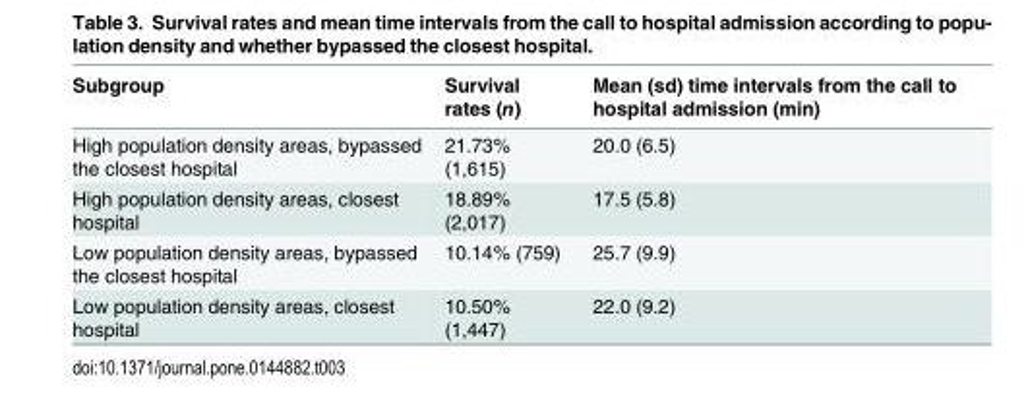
<table><thead><tr><td>Subgroup</td><td>Survival rates (n)</td><td>Mean (sd) time intervals from the call to hospital admission (min)</td></tr></thead><tbody><tr><td>High population density areas, bypassed the closest hospital</td><td>21.73% (1,615)</td><td>20.0 (6.5)</td></tr><tr><td>High population density areas, closest hospital</td><td>18.89% (2,017)</td><td>17.5 (5.8)</td></tr><tr><td>Low population density areas, bypassed the closest hospital</td><td>10.14% (759)</td><td>25.7 (9.9)</td></tr><tr><td>Low population density areas, closest hospital</td><td>10.50% (1,447)</td><td>22.0 (9.2)</td></tr></tbody></table>